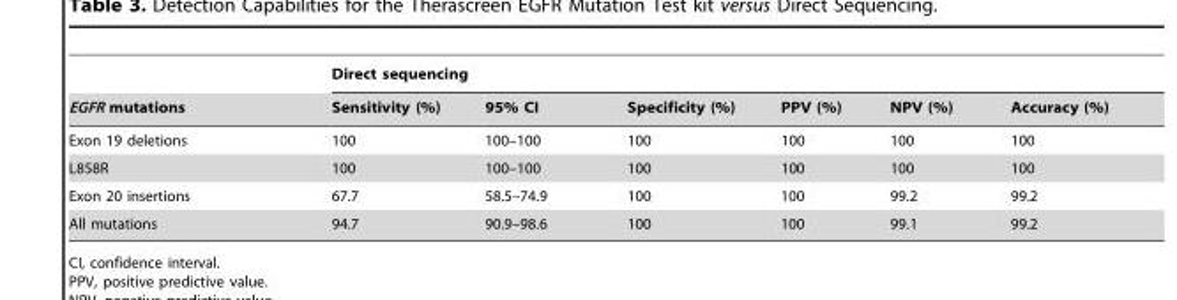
<table><thead><tr><td rowspan="2">EGFR mutations</td><td colspan="6">Direct sequencing</td></tr><tr><td>Sensitivity (%)</td><td>95% CI</td><td>Specificity (%)</td><td>PPV (%)</td><td>NPV (%)</td><td>Accuracy (%)</td></tr></thead><tbody><tr><td>Exon 19 deletions</td><td>100</td><td>100–100</td><td>100</td><td>100</td><td>100</td><td>100</td></tr><tr><td>L858R</td><td>100</td><td>100–100</td><td>100</td><td>100</td><td>100</td><td>100</td></tr><tr><td>Exon 20 insertions</td><td>67.7</td><td>58.5–74.9</td><td>100</td><td>100</td><td>99.2</td><td>99.2</td></tr><tr><td>All mutations</td><td>94.7</td><td>90.9–98.6</td><td>100</td><td>100</td><td>99.1</td><td>99.2</td></tr></tbody></table>